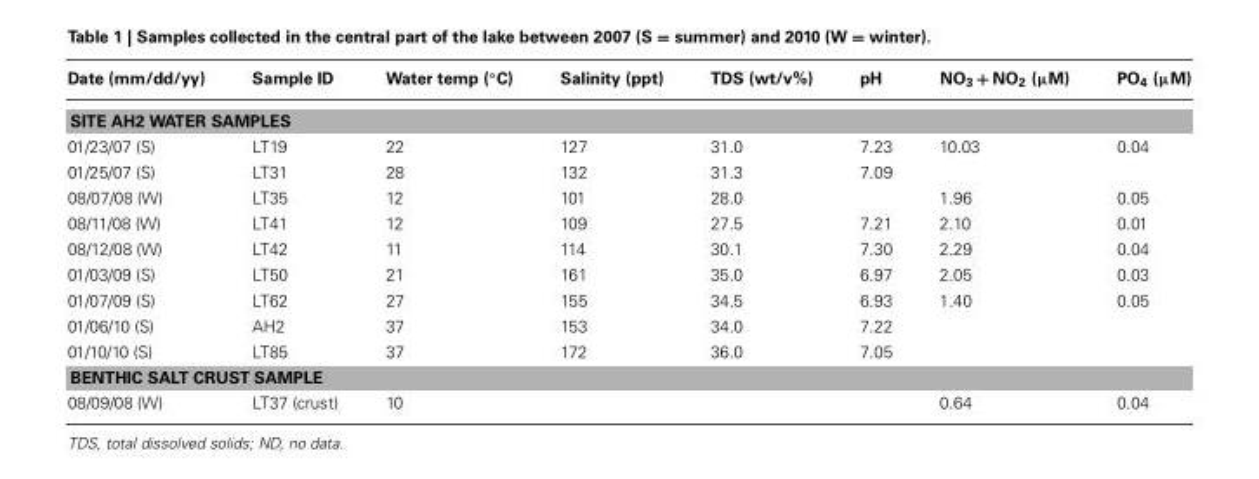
<table><thead><tr><td>Date (mm/dd/yy)</td><td>Sample ID</td><td>Water temp (◦C)</td><td>Salinity (ppt)</td><td>TDS (wt/v%)</td><td>pH</td><td>NO<sub>3</sub> + NO<sub>2</sub> (µM)</td><td>PO<sub>4</sub> (µM)</td></tr></thead><tbody><tr><td colspan="8">SITE AH2 WATER SAMPLES</td></tr><tr><td>01/23/07 (S)</td><td>LT19</td><td>22</td><td>127</td><td>31.0</td><td>7.23</td><td>10.03</td><td>0.04</td></tr><tr><td>01/25/07 (S)</td><td>LT31</td><td>28</td><td>132</td><td>31.3</td><td>7.09</td><td></td><td></td></tr><tr><td>08/07/08 (W)</td><td>LT35</td><td>12</td><td>101</td><td>28.0</td><td></td><td>1.96</td><td>0.05</td></tr><tr><td>08/11/08 (W)</td><td>LT41</td><td>12</td><td>109</td><td>27.5</td><td>7.21</td><td>2.10</td><td>0.01</td></tr><tr><td>08/12/08 (W)</td><td>LT42</td><td>11</td><td>114</td><td>30.1</td><td>7.30</td><td>2.29</td><td>0.04</td></tr><tr><td>01/03/09 (S)</td><td>LT50</td><td>21</td><td>161</td><td>35.0</td><td>6.97</td><td>2.05</td><td>0.03</td></tr><tr><td>01/07/09 (S)</td><td>LT62</td><td>27</td><td>155</td><td>34.5</td><td>6.93</td><td>1.40</td><td>0.05</td></tr><tr><td>01/06/10 (S)</td><td>AH2</td><td>37</td><td>153</td><td>34.0</td><td>7.22</td><td></td><td></td></tr><tr><td>01/10/10 (S)</td><td>LT85</td><td>37</td><td>172</td><td>36.0</td><td>7.05</td><td></td><td></td></tr><tr><td colspan="8">BENTHIC SALT CRUST SAMPLE</td></tr><tr><td>08/09/08 (W)</td><td>LT37 (crust)</td><td>10</td><td></td><td></td><td></td><td>0.64</td><td>0.04</td></tr></tbody></table>